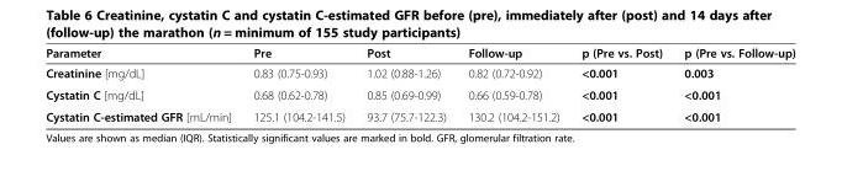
<table><thead><tr><td>Parameter</td><td>Pre</td><td>Post</td><td>Follow-up</td><td>p (Pre vs. Post)</td><td>p (Pre vs. Follow-up)</td></tr></thead><tbody><tr><td>Creatinine [mg/dL]</td><td>0.83 (0.75-0.93)</td><td>1.02 (0.88-1.26)</td><td>0.82 (0.72-0.92)</td><td>&lt;0.001</td><td>0.003</td></tr><tr><td>Cystatin C [mg/dL]</td><td>0.68 (0.62-0.78)</td><td>0.85 (0.69-0.99)</td><td>0.66 (0.59-0.78)</td><td>&lt;0.001</td><td>&lt;0.001</td></tr><tr><td>Cystatin C-estimated GFR [mL/min]</td><td>125.1 (104.2-141.5)</td><td>93.7 (75.7-122.3)</td><td>130.2 (104.2-151.2)</td><td>&lt;0.001</td><td>&lt;0.001</td></tr></tbody></table>